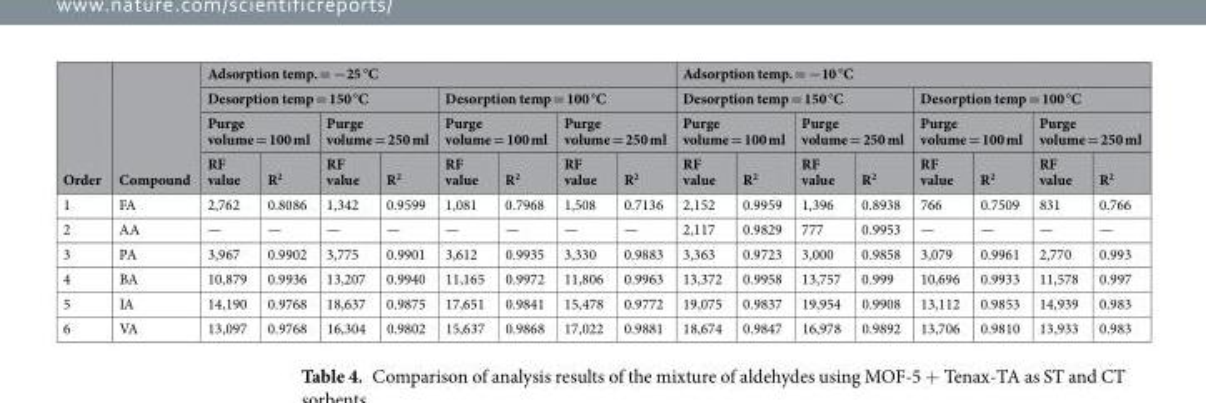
<table><thead><tr><td rowspan="4">Order</td><td rowspan="4">Compound</td><td colspan="8">Adsorption temp. = −25 °C</td><td colspan="8">Adsorption temp. = −10 °C</td></tr><tr><td colspan="4">Desorption temp = 150 °C</td><td colspan="4">Desorption temp = 100 °C</td><td colspan="4">Desorption temp = 150 °C</td><td colspan="4">Desorption temp = 100 °C</td></tr><tr><td colspan="2">Purge volume = 100 ml</td><td colspan="2">Purge volume = 250 ml</td><td colspan="2">Purge volume = 100 ml</td><td colspan="2">Purge volume = 250 ml</td><td colspan="2">Purge volume = 100 ml</td><td colspan="2">Purge volume = 250 ml</td><td colspan="2">Purge volume = 100 ml</td><td colspan="2">Purge volume = 250 ml</td></tr><tr><td>RF value</td><td>R<sup>2</sup></td><td>RF value</td><td>R<sup>2</sup></td><td>RF value</td><td>R<sup>2</sup></td><td>RF value</td><td>R<sup>2</sup></td><td>RF value</td><td>R<sup>2</sup></td><td>RF value</td><td>R<sup>2</sup></td><td>RF value</td><td>R<sup>2</sup></td><td>RF value</td><td>R<sup>2</sup></td></tr></thead><tbody><tr><td>1</td><td>FA</td><td>2,762</td><td>0.8086</td><td>1,342</td><td>0.9599</td><td>1,081</td><td>0.7968</td><td>1,508</td><td>0.7136</td><td>2,152</td><td>0.9959</td><td>1,396</td><td>0.8938</td><td>766</td><td>0.7509</td><td>831</td><td>0.766</td></tr><tr><td>2</td><td>AA</td><td>—</td><td>—</td><td>—</td><td>—</td><td>—</td><td>—</td><td>—</td><td>—</td><td>2,117</td><td>0.9829</td><td>777</td><td>0.9953</td><td>—</td><td>—</td><td>—</td><td>—</td></tr><tr><td>3</td><td>PA</td><td>3,967</td><td>0.9902</td><td>3,775</td><td>0.9901</td><td>3,612</td><td>0.9935</td><td>3,330</td><td>0.9883</td><td>3,363</td><td>0.9723</td><td>3,000</td><td>0.9858</td><td>3,079</td><td>0.9961</td><td>2,770</td><td>0.993</td></tr><tr><td>4</td><td>BA</td><td>10,879</td><td>0.9936</td><td>13,207</td><td>0.9940</td><td>11,165</td><td>0.9972</td><td>11,806</td><td>0.9963</td><td>13,372</td><td>0.9958</td><td>13,757</td><td>0.999</td><td>10,696</td><td>0.9933</td><td>11,578</td><td>0.997</td></tr><tr><td>5</td><td>IA</td><td>14,190</td><td>0.9768</td><td>18,637</td><td>0.9875</td><td>17,651</td><td>0.9841</td><td>15,478</td><td>0.9772</td><td>19,075</td><td>0.9837</td><td>19,954</td><td>0.9908</td><td>13,112</td><td>0.9853</td><td>14,939</td><td>0.983</td></tr><tr><td>6</td><td>VA</td><td>13,097</td><td>0.9768</td><td>16,304</td><td>0.9802</td><td>15,637</td><td>0.9868</td><td>17,022</td><td>0.9881</td><td>18,674</td><td>0.9847</td><td>16,978</td><td>0.9892</td><td>13,706</td><td>0.9810</td><td>13,933</td><td>0.983</td></tr></tbody></table>